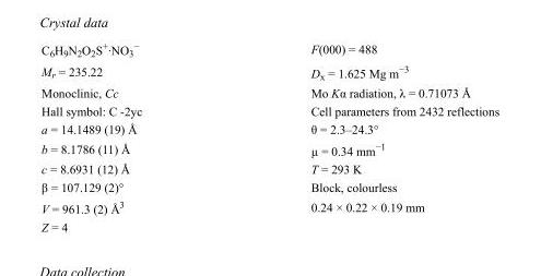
<table><tbody><tr><td>C<sub>6</sub>H<sub>9</sub>N<sub>2</sub>O<sub>2</sub>S<sup>+</sup>·NO<sub>3</sub> <sup>−</sup></td><td>F(000) = 488</td></tr><tr><td>M<sub>r</sub> = 235.22</td><td>D<sub>x</sub> = 1.625 Mg m<sup>−3</sup></td></tr><tr><td>Monoclinic, Cc</td><td>Mo Kα radiation, λ = 0.71073 Å</td></tr><tr><td>Hall symbol: C -2yc</td><td>Cell parameters from 2432 reflections</td></tr><tr><td>a = 14.1489 (19) Å</td><td>θ = 2.3–24.3°</td></tr><tr><td>b = 8.1786 (11) Å</td><td>µ = 0.34 mm<sup>−1</sup></td></tr><tr><td>c = 8.6931 (12) Å</td><td>T = 293 K</td></tr><tr><td>β = 107.129 (2)°</td><td>Block, colourless</td></tr><tr><td>V = 961.3 (2) Å<sup>3</sup></td><td>0.24 × 0.22 × 0.19 mm</td></tr><tr><td>Z = 4</td><td></td></tr></tbody></table>